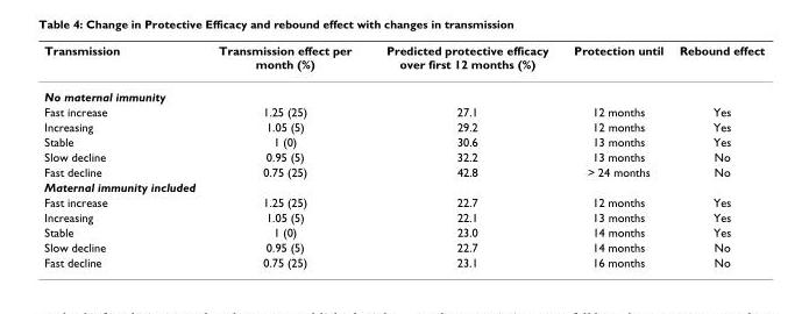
<table><thead><tr><td>Transmission</td><td>Transmission effect per month (%)</td><td>Predicted protective efficacy over first 12 months (%)</td><td>Protection until</td><td>Rebound effect</td></tr></thead><tbody><tr><td colspan="5">No maternal immunity</td></tr><tr><td>Fast increase</td><td>1.25 (25)</td><td>27.1</td><td>12 months</td><td>Yes</td></tr><tr><td>Increasing</td><td>1.05 (5)</td><td>29.2</td><td>12 months</td><td>Yes</td></tr><tr><td>Stable</td><td>1 (0)</td><td>30.6</td><td>13 months</td><td>Yes</td></tr><tr><td>Slow decline</td><td>0.95 (5)</td><td>32.2</td><td>13 months</td><td>No</td></tr><tr><td>Fast decline</td><td>0.75 (25)</td><td>42.8</td><td>&gt; 24 months</td><td>No</td></tr><tr><td colspan="5">Maternal immunity included</td></tr><tr><td>Fast increase</td><td>1.25 (25)</td><td>22.7</td><td>12 months</td><td>Yes</td></tr><tr><td>Increasing</td><td>1.05 (5)</td><td>22.1</td><td>13 months</td><td>Yes</td></tr><tr><td>Stable</td><td>1 (0)</td><td>23.0</td><td>14 months</td><td>Yes</td></tr><tr><td>Slow decline</td><td>0.95 (5)</td><td>22.7</td><td>14 months</td><td>No</td></tr><tr><td>Fast decline</td><td>0.75 (25)</td><td>23.1</td><td>16 months</td><td>No</td></tr></tbody></table>